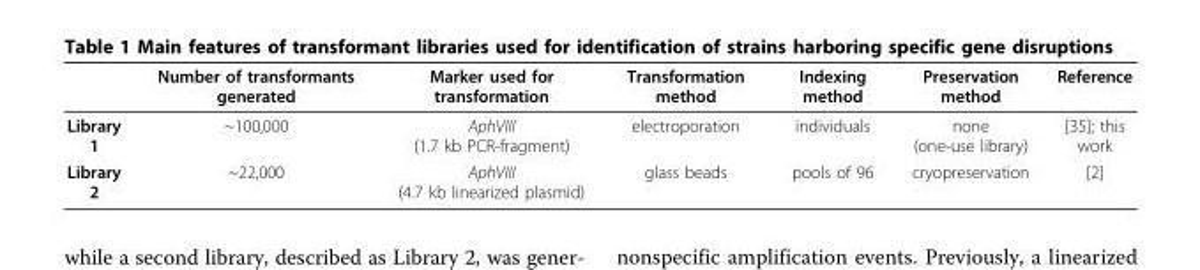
<table><thead><tr><td></td><td>Number of transformants generated</td><td>Marker used for transformation</td><td>Transformation method</td><td>Indexing method</td><td>Preservation method</td><td>Reference</td></tr></thead><tbody><tr><td>Library 1</td><td>~100,000</td><td>AphVIII (1.7 kb PCR-fragment)</td><td>electroporation</td><td>individuals</td><td>none (one-use library)</td><td>[35]; this work</td></tr><tr><td>Library 2</td><td>~22,000</td><td>AphVIII (4.7 kb linearized plasmid)</td><td>glass beads</td><td>pools of 96</td><td>cryopreservation</td><td>[2]</td></tr></tbody></table>